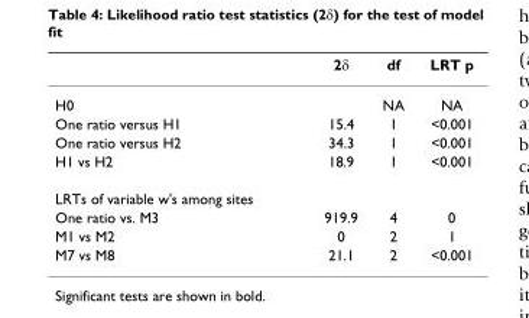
<table><thead><tr><td></td><td>2δ</td><td>df</td><td>LRT p</td></tr></thead><tbody><tr><td>H0</td><td></td><td>NA</td><td>NA</td></tr><tr><td>One ratio versus H1</td><td>15.4</td><td>1</td><td>&lt;0.001</td></tr><tr><td>One ratio versus H2</td><td>34.3</td><td>1</td><td>&lt;0.001</td></tr><tr><td>H1 vs H2</td><td>18.9</td><td>1</td><td>&lt;0.001</td></tr><tr><td colspan="4">LRTs of variable w&#x27;s among sites</td></tr><tr><td>One ratio vs. M3</td><td>919.9</td><td>4</td><td>0</td></tr><tr><td>M1 vs M2</td><td>0</td><td>2</td><td>1</td></tr><tr><td>M7 vs M8</td><td>21.1</td><td>2</td><td>&lt;0.001</td></tr></tbody></table>